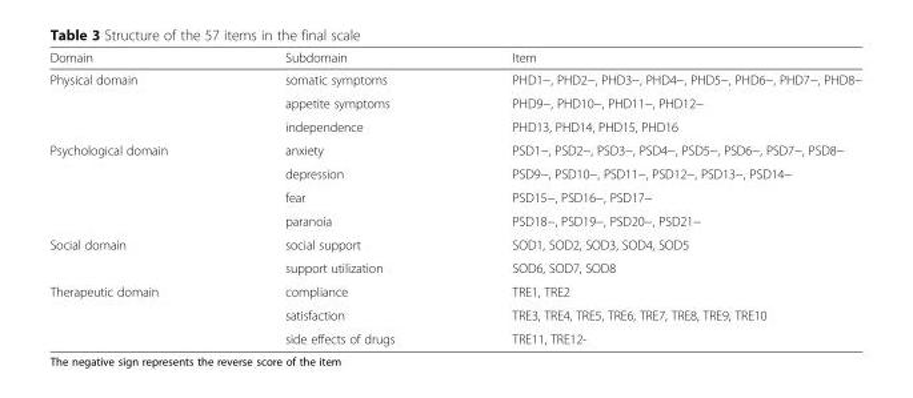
<table><thead><tr><td>Domain</td><td>Subdomain</td><td>Item</td></tr></thead><tbody><tr><td rowspan="3">Physical domain</td><td>somatic symptoms</td><td>PHD1−, PHD2−, PHD3−, PHD4−, PHD5−, PHD6−, PHD7−, PHD8−</td></tr><tr><td>appetite symptoms</td><td>PHD9−, PHD10−, PHD11−, PHD12−</td></tr><tr><td>independence</td><td>PHD13, PHD14, PHD15, PHD16</td></tr><tr><td rowspan="4">Psychological domain</td><td>anxiety</td><td>PSD1−, PSD2−, PSD3−, PSD4−, PSD5−, PSD6−, PSD7−, PSD8−</td></tr><tr><td>depression</td><td>PSD9−, PSD10−, PSD11−, PSD12−, PSD13−, PSD14−</td></tr><tr><td>fear</td><td>PSD15−, PSD16−, PSD17−</td></tr><tr><td>paranoia</td><td>PSD18−, PSD19−, PSD20−, PSD21−</td></tr><tr><td rowspan="2">Social domain</td><td>social support</td><td>SOD1, SOD2, SOD3, SOD4, SOD5</td></tr><tr><td>support utilization</td><td>SOD6, SOD7, SOD8</td></tr><tr><td rowspan="3">Therapeutic domain</td><td>compliance</td><td>TRE1, TRE2</td></tr><tr><td>satisfaction</td><td>TRE3, TRE4, TRE5, TRE6, TRE7, TRE8, TRE9, TRE10</td></tr><tr><td>side effects of drugs</td><td>TRE11, TRE12-</td></tr></tbody></table>